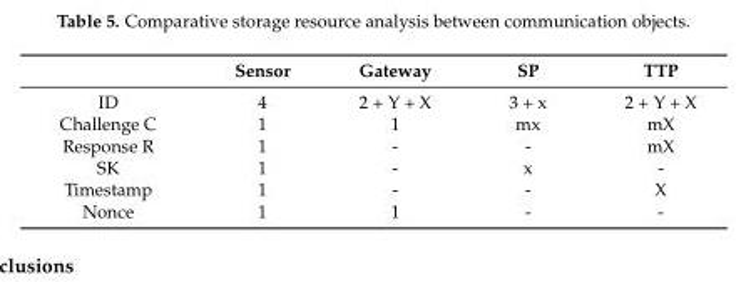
<table><thead><tr><td></td><td>Sensor</td><td>Gateway</td><td>SP</td><td>TTP</td></tr></thead><tbody><tr><td>ID</td><td>4</td><td>2 + Y + X</td><td>3 + x</td><td>2 + Y + X</td></tr><tr><td>Challenge C</td><td>1</td><td>1</td><td>mx</td><td>mX</td></tr><tr><td>Response R</td><td>1</td><td>-</td><td>-</td><td>mX</td></tr><tr><td>SK</td><td>1</td><td>-</td><td>x</td><td>-</td></tr><tr><td>Timestamp</td><td>1</td><td>-</td><td>-</td><td>X</td></tr><tr><td>Nonce</td><td>1</td><td>1</td><td>-</td><td>-</td></tr></tbody></table>